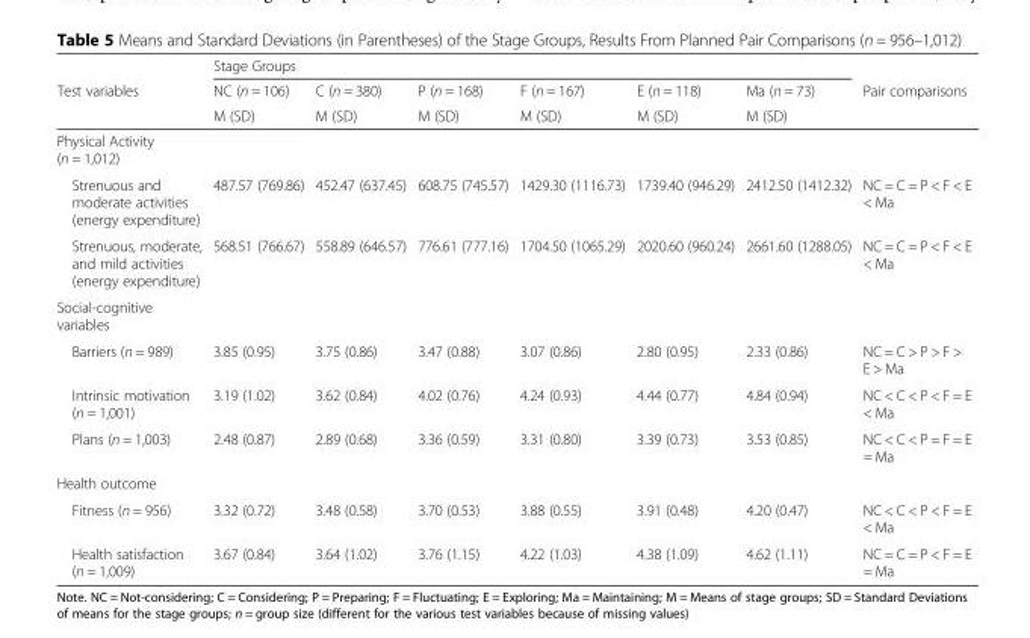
<table><thead><tr><td rowspan="3">Test variables</td><td colspan="6">Stage Groups</td><td rowspan="3">Pair comparisons</td></tr><tr><td rowspan="2">NC (n = 106) M (SD)</td><td rowspan="2">C (n = 380) M (SD)</td><td rowspan="2">P (n = 168) M (SD)</td><td rowspan="2">F (n = 167) M (SD)</td><td rowspan="2">E (n = 118) M (SD)</td><td rowspan="2">Ma (n = 73) M (SD)</td></tr><tr></tr></thead><tbody><tr><td colspan="8">Physical Activity (n = 1,012)</td></tr><tr><td>Strenuous and moderate activities (energy expenditure)</td><td>487.57 (769.86)</td><td>452.47 (637.45)</td><td>608.75 (745.57)</td><td>1429.30 (1116.73)</td><td>1739.40 (946.29)</td><td>2412.50 (1412.32)</td><td>NC = C = P &lt; F &lt; E &lt; Ma</td></tr><tr><td>Strenuous, moderate, and mild activities (energy expenditure)</td><td>568.51 (766.67)</td><td>558.89 (646.57)</td><td>776.61 (777.16)</td><td>1704.50 (1065.29)</td><td>2020.60 (960.24)</td><td>2661.60 (1288.05)</td><td>NC = C = P &lt; F &lt; E &lt; Ma</td></tr><tr><td colspan="8">Social-cognitive variables</td></tr><tr><td>Barriers (n = 989)</td><td>3.85 (0.95)</td><td>3.75 (0.86)</td><td>3.47 (0.88)</td><td>3.07 (0.86)</td><td>2.80 (0.95)</td><td>2.33 (0.86)</td><td>NC = C &gt; P &gt; F &gt; E &gt; Ma</td></tr><tr><td>Intrinsic motivation (n = 1,001)</td><td>3.19 (1.02)</td><td>3.62 (0.84)</td><td>4.02 (0.76)</td><td>4.24 (0.93)</td><td>4.44 (0.77)</td><td>4.84 (0.94)</td><td>NC &lt; C &lt; P &lt; F = E &lt; Ma</td></tr><tr><td>Plans (n = 1,003)</td><td>2.48 (0.87)</td><td>2.89 (0.68)</td><td>3.36 (0.59)</td><td>3.31 (0.80)</td><td>3.39 (0.73)</td><td>3.53 (0.85)</td><td>NC &lt; C &lt; P = F = E = Ma</td></tr><tr><td colspan="8">Health outcome</td></tr><tr><td>Fitness (n = 956)</td><td>3.32 (0.72)</td><td>3.48 (0.58)</td><td>3.70 (0.53)</td><td>3.88 (0.55)</td><td>3.91 (0.48)</td><td>4.20 (0.47)</td><td>NC &lt; C &lt; P &lt; F = E &lt; Ma</td></tr><tr><td>Health satisfaction (n = 1,009)</td><td>3.67 (0.84)</td><td>3.64 (1.02)</td><td>3.76 (1.15)</td><td>4.22 (1.03)</td><td>4.38 (1.09)</td><td>4.62 (1.11)</td><td>NC = C = P &lt; F = E = Ma</td></tr></tbody></table>